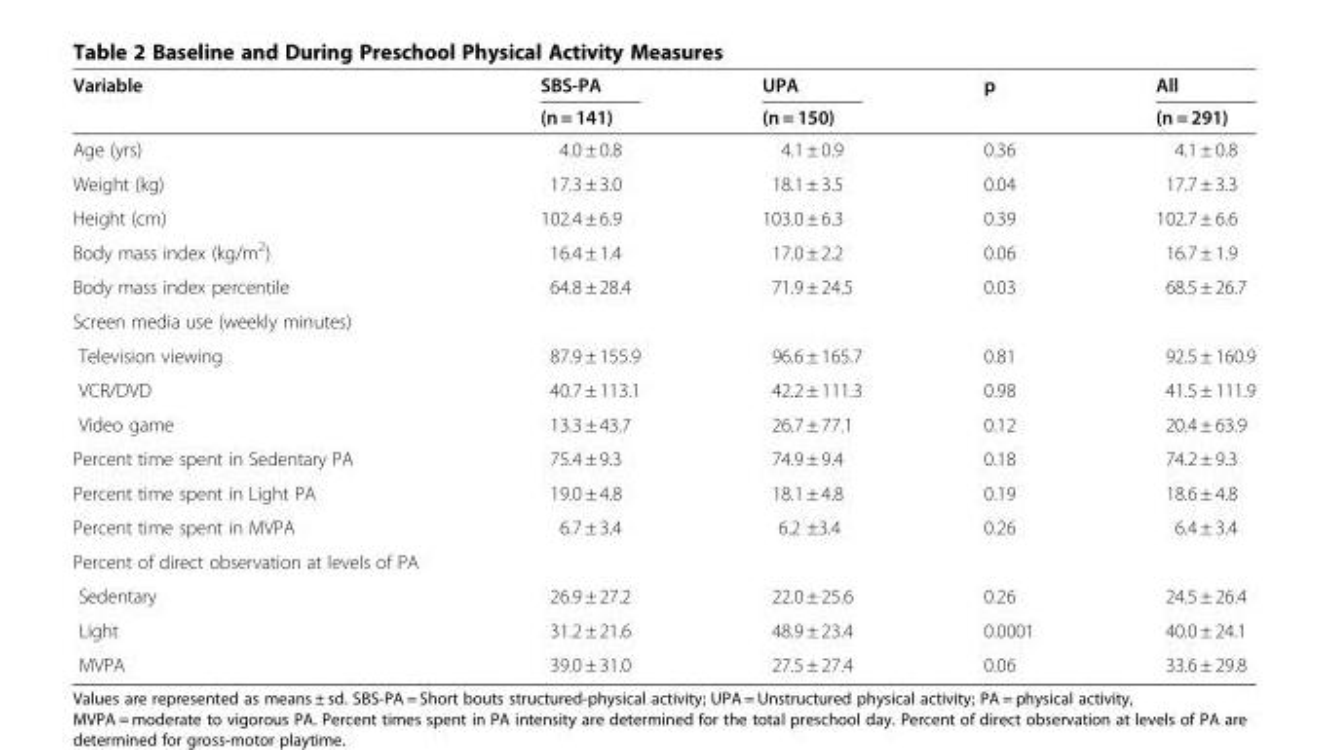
<table><thead><tr><td rowspan="2">Variable</td><td rowspan="2">SBS-PA (n = 141)</td><td rowspan="2">UPA (n = 150)</td><td rowspan="2">p</td><td rowspan="2">All (n = 291)</td></tr><tr></tr></thead><tbody><tr><td>Age (yrs)</td><td>4.0 ± 0.8</td><td>4.1 ± 0.9</td><td>0.36</td><td>4.1 ± 0.8</td></tr><tr><td>Weight (kg)</td><td>17.3 ± 3.0</td><td>18.1 ± 3.5</td><td>0.04</td><td>17.7 ± 3.3</td></tr><tr><td>Height (cm)</td><td>102.4 ± 6.9</td><td>103.0 ± 6.3</td><td>0.39</td><td>102.7 ± 6.6</td></tr><tr><td>Body mass index (kg/m<sup>2</sup>)</td><td>16.4 ± 1.4</td><td>17.0 ± 2.2</td><td>0.06</td><td>16.7 ± 1.9</td></tr><tr><td>Body mass index percentile</td><td>64.8 ± 28.4</td><td>71.9 ± 24.5</td><td>0.03</td><td>68.5 ± 26.7</td></tr><tr><td colspan="5">Screen media use (weekly minutes)</td></tr><tr><td>Television viewing</td><td>87.9 ± 155.9</td><td>96.6 ± 165.7</td><td>0.81</td><td>92.5 ± 160.9</td></tr><tr><td>VCR/DVD</td><td>40.7 ± 113.1</td><td>42.2 ± 111.3</td><td>0.98</td><td>41.5 ± 111.9</td></tr><tr><td>Video game</td><td>13.3 ± 43.7</td><td>26.7 ± 77.1</td><td>0.12</td><td>20.4 ± 63.9</td></tr><tr><td>Percent time spent in Sedentary PA</td><td>75.4 ± 9.3</td><td>74.9 ± 9.4</td><td>0.18</td><td>74.2 ± 9.3</td></tr><tr><td>Percent time spent in Light PA</td><td>19.0 ± 4.8</td><td>18.1 ± 4.8</td><td>0.19</td><td>18.6 ± 4.8</td></tr><tr><td>Percent time spent in MVPA</td><td>6.7 ± 3.4</td><td>6.2 ±3.4</td><td>0.26</td><td>6.4 ± 3.4</td></tr><tr><td colspan="5">Percent of direct observation at levels of PA</td></tr><tr><td>Sedentary</td><td>26.9 ± 27.2</td><td>22.0 ± 25.6</td><td>0.26</td><td>24.5 ± 26.4</td></tr><tr><td>Light</td><td>31.2 ± 21.6</td><td>48.9 ± 23.4</td><td>0.0001</td><td>40.0 ± 24.1</td></tr><tr><td>MVPA</td><td>39.0 ± 31.0</td><td>27.5 ± 27.4</td><td>0.06</td><td>33.6 ± 29.8</td></tr></tbody></table>